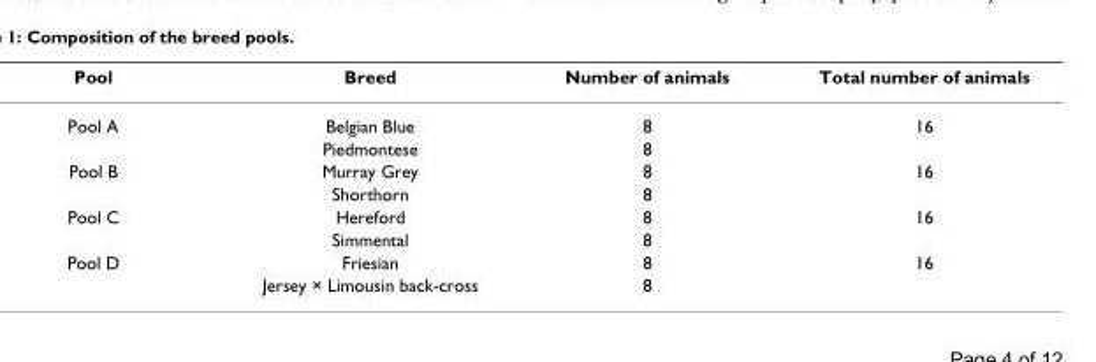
<table><thead><tr><td>Pool</td><td>Breed</td><td>Number of animals</td><td>Total number of animals</td></tr></thead><tbody><tr><td rowspan="2">Pool A</td><td>Belgian Blue</td><td>8</td><td>16</td></tr><tr><td>Piedmontese</td><td>8</td><td></td></tr><tr><td rowspan="2">Pool B</td><td>Murray Grey</td><td>8</td><td>16</td></tr><tr><td>Shorthorn</td><td>8</td><td></td></tr><tr><td rowspan="2">Pool C</td><td>Hereford</td><td>8</td><td>16</td></tr><tr><td>Simmental</td><td>8</td><td></td></tr><tr><td rowspan="2">Pool D</td><td>Friesian</td><td>8</td><td>16</td></tr><tr><td>Jersey × Limousin back-cross</td><td>8</td><td></td></tr></tbody></table>